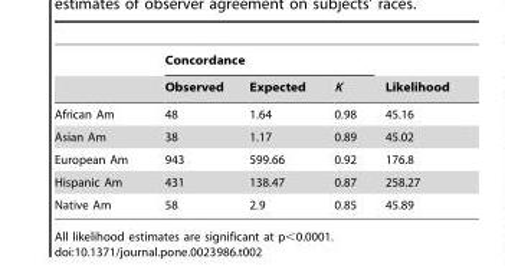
<table><thead><tr><td rowspan="2"></td><td colspan="3">Concordance</td><td rowspan="2">Likelihood</td></tr><tr><td>Observed</td><td>Expected</td><td>K</td></tr></thead><tbody><tr><td>African Am</td><td>48</td><td>1.64</td><td>0.98</td><td>45.16</td></tr><tr><td>Asian Am</td><td>38</td><td>1.17</td><td>0.89</td><td>45.02</td></tr><tr><td>European Am</td><td>943</td><td>599.66</td><td>0.92</td><td>176.8</td></tr><tr><td>Hispanic Am</td><td>431</td><td>138.47</td><td>0.87</td><td>258.27</td></tr><tr><td>Native Am</td><td>58</td><td>2.9</td><td>0.85</td><td>45.89</td></tr></tbody></table>